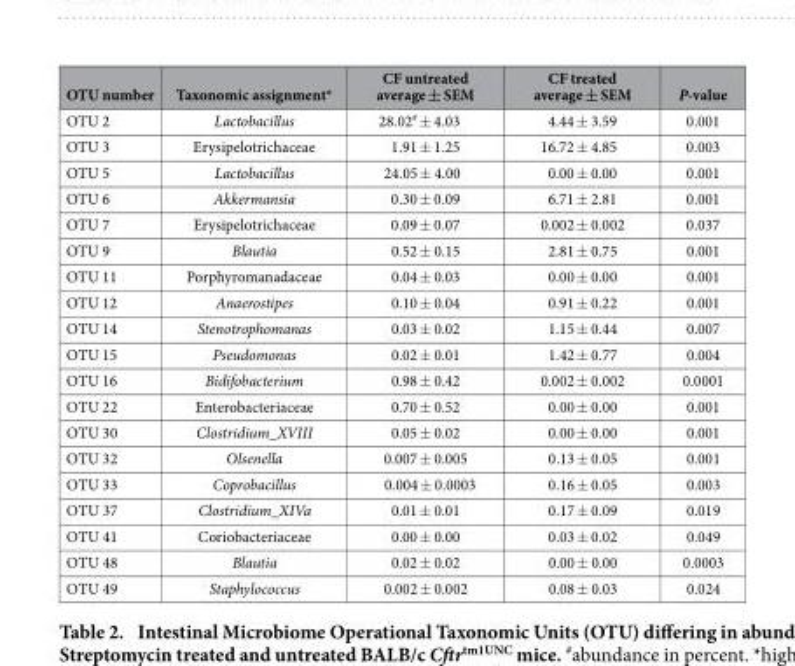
<table><thead><tr><td>OTU number</td><td>Taxonomic assignment*</td><td>CF untreated average ± SEM</td><td>CF treated average ± SEM</td><td>P-value</td></tr></thead><tbody><tr><td>OTU 2</td><td>Lactobacillus</td><td>28.02<sup>#</sup> ± 4.03</td><td>4.44 ± 3.59</td><td>0.001</td></tr><tr><td>OTU 3</td><td>Erysipelotrichaceae</td><td>1.91 ± 1.25</td><td>16.72 ± 4.85</td><td>0.003</td></tr><tr><td>OTU 5</td><td>Lactobacillus</td><td>24.05 ± 4.00</td><td>0.00 ± 0.00</td><td>0.001</td></tr><tr><td>OTU 6</td><td>Akkermansia</td><td>0.30 ± 0.09</td><td>6.71 ± 2.81</td><td>0.001</td></tr><tr><td>OTU 7</td><td>Erysipelotrichaceae</td><td>0.09 ± 0.07</td><td>0.002 ± 0.002</td><td>0.037</td></tr><tr><td>OTU 9</td><td>Blautia</td><td>0.52 ± 0.15</td><td>2.81 ± 0.75</td><td>0.001</td></tr><tr><td>OTU 11</td><td>Porphyromanadaceae</td><td>0.04 ± 0.03</td><td>0.00 ± 0.00</td><td>0.001</td></tr><tr><td>OTU 12</td><td>Anaerostipes</td><td>0.10 ± 0.04</td><td>0.91 ± 0.22</td><td>0.001</td></tr><tr><td>OTU 14</td><td>Stenotrophomanas</td><td>0.03 ± 0.02</td><td>1.15 ± 0.44</td><td>0.007</td></tr><tr><td>OTU 15</td><td>Pseudomonas</td><td>0.02 ± 0.01</td><td>1.42 ± 0.77</td><td>0.004</td></tr><tr><td>OTU 16</td><td>Bidifobacterium</td><td>0.98 ± 0.42</td><td>0.002 ± 0.002</td><td>0.0001</td></tr><tr><td>OTU 22</td><td>Enterobacteriaceae</td><td>0.70 ± 0.52</td><td>0.00 ± 0.00</td><td>0.001</td></tr><tr><td>OTU 30</td><td>Clostridium_XVIII</td><td>0.05 ± 0.02</td><td>0.00 ± 0.00</td><td>0.001</td></tr><tr><td>OTU 32</td><td>Olsenella</td><td>0.007 ± 0.005</td><td>0.13 ± 0.05</td><td>0.001</td></tr><tr><td>OTU 33</td><td>Coprobacillus</td><td>0.004 ± 0.0003</td><td>0.16 ± 0.05</td><td>0.003</td></tr><tr><td>OTU 37</td><td>Clostridium_XIVa</td><td>0.01 ± 0.01</td><td>0.17 ± 0.09</td><td>0.019</td></tr><tr><td>OTU 41</td><td>Coriobacteriaceae</td><td>0.00 ± 0.00</td><td>0.03 ± 0.02</td><td>0.049</td></tr><tr><td>OTU 48</td><td>Blautia</td><td>0.02 ± 0.02</td><td>0.00 ± 0.00</td><td>0.0003</td></tr><tr><td>OTU 49</td><td>Staphylococcus</td><td>0.002 ± 0.002</td><td>0.08 ± 0.03</td><td>0.024</td></tr></tbody></table>